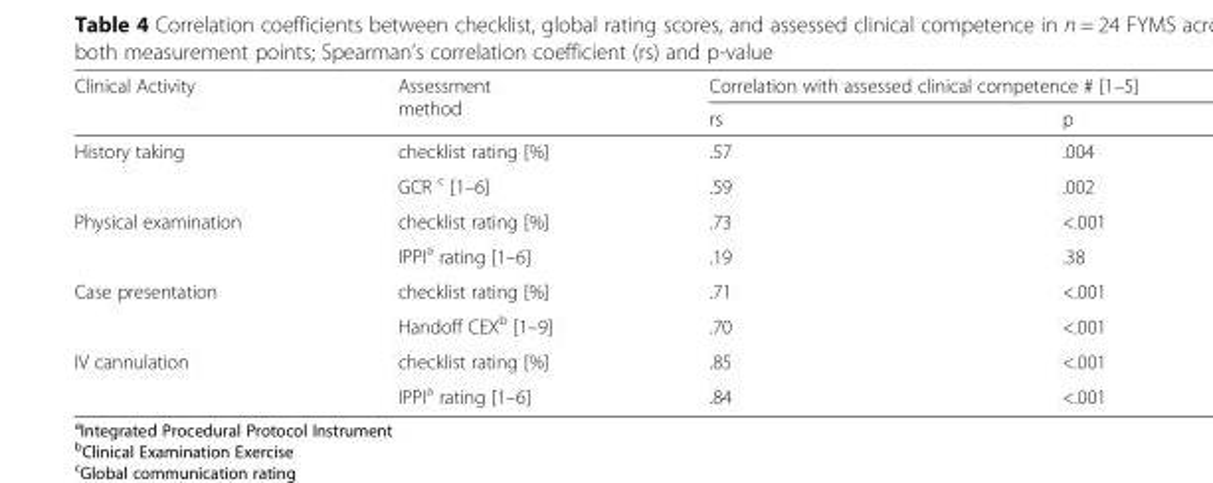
<table><thead><tr><td rowspan="2">Clinical Activity</td><td rowspan="2">Assessment method</td><td colspan="2">Correlation with assessed clinical competence # [1–5]</td></tr><tr><td>rs</td><td>p</td></tr></thead><tbody><tr><td rowspan="2">History taking</td><td>checklist rating [%]</td><td>.57</td><td>.004</td></tr><tr><td>GCR <sup>c</sup> [1–6]</td><td>.59</td><td>.002</td></tr><tr><td rowspan="2">Physical examination</td><td>checklist rating [%]</td><td>.73</td><td>&lt;.001</td></tr><tr><td>IPPI<sup>a</sup> rating [1–6]</td><td>.19</td><td>.38</td></tr><tr><td rowspan="2">Case presentation</td><td>checklist rating [%]</td><td>.71</td><td>&lt;.001</td></tr><tr><td>Handoff CEX<sup>b</sup> [1–9]</td><td>.70</td><td>&lt;.001</td></tr><tr><td rowspan="2">IV cannulation</td><td>checklist rating [%]</td><td>.85</td><td>&lt;.001</td></tr><tr><td>IPPI<sup>a</sup> rating [1–6]</td><td>.84</td><td>&lt;.001</td></tr></tbody></table>